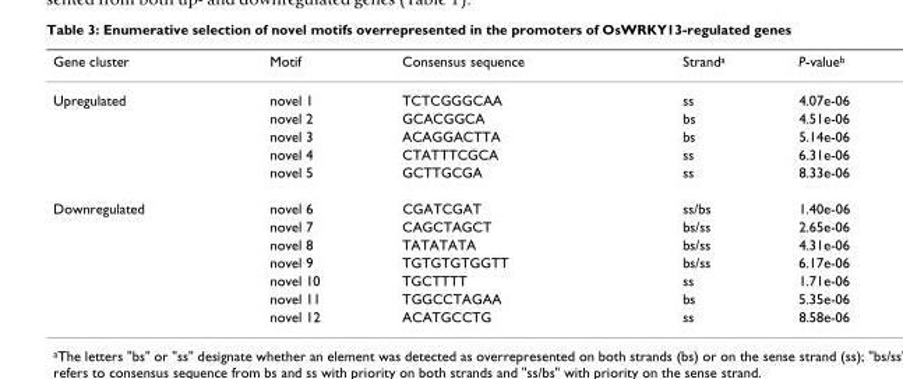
<table><thead><tr><td>Gene cluster</td><td>Motif</td><td>Consensus sequence</td><td>Strand<sup>a</sup></td><td>P-value<sup>b</sup></td></tr></thead><tbody><tr><td rowspan="5">Upregulated</td><td>novel 1</td><td>TCTCGGGCAA</td><td>ss</td><td>4.07e-06</td></tr><tr><td>novel 2</td><td>GCACGGCA</td><td>bs</td><td>4.51e-06</td></tr><tr><td>novel 3</td><td>ACAGGACTTA</td><td>bs</td><td>5.14e-06</td></tr><tr><td>novel 4</td><td>CTATTTCGCA</td><td>ss</td><td>6.31e-06</td></tr><tr><td>novel 5</td><td>GCTTGCGA</td><td>ss</td><td>8.33e-06</td></tr><tr><td rowspan="7">Downregulated</td><td>novel 6</td><td>CGATCGAT</td><td>ss/bs</td><td>1.40e-06</td></tr><tr><td>novel 7</td><td>CAGCTAGCT</td><td>bs/ss</td><td>2.65e-06</td></tr><tr><td>novel 8</td><td>TATATATA</td><td>bs/ss</td><td>4.31e-06</td></tr><tr><td>novel 9</td><td>TGTGTGTGGTT</td><td>bs/ss</td><td>6.17e-06</td></tr><tr><td>novel 10</td><td>TGCTTTT</td><td>ss</td><td>1.71e-06</td></tr><tr><td>novel 11</td><td>TGGCCTAGAA</td><td>bs</td><td>5.35e-06</td></tr><tr><td>novel 12</td><td>ACATGCCTG</td><td>ss</td><td>8.58e-06</td></tr></tbody></table>